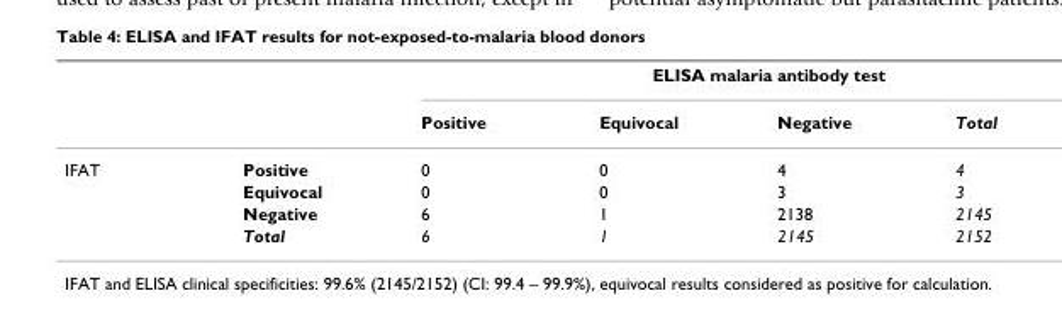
<table><thead><tr><td rowspan="2"></td><td rowspan="2"></td><td colspan="4">ELISA malaria antibody test</td></tr><tr><td>Positive</td><td>Equivocal</td><td>Negative</td><td>Total</td></tr></thead><tbody><tr><td rowspan="4">IFAT</td><td>Positive</td><td>0</td><td>0</td><td>4</td><td>4</td></tr><tr><td>Equivocal</td><td>0</td><td>0</td><td>3</td><td>3</td></tr><tr><td>Negative</td><td>6</td><td>1</td><td>2138</td><td>2145</td></tr><tr><td>Total</td><td>6</td><td>1</td><td>2145</td><td>2152</td></tr></tbody></table>